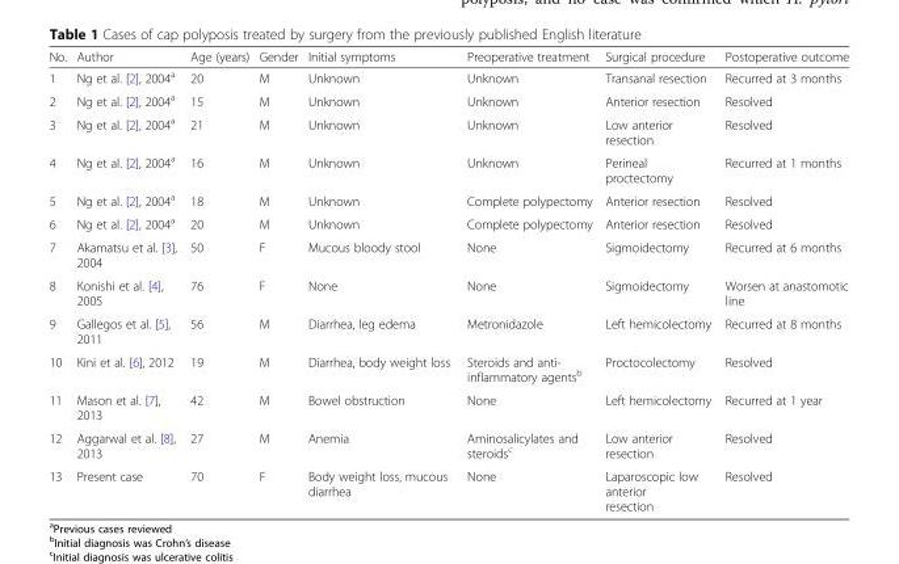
<table><thead><tr><td>No.</td><td>Author</td><td>Age (years)</td><td>Gender</td><td>Initial symptoms</td><td>Preoperative treatment</td><td>Surgical procedure</td><td>Postoperative outcome</td></tr></thead><tbody><tr><td>1</td><td>Ng et al. [2], 2004<sup>a</sup></td><td>20</td><td>M</td><td>Unknown</td><td>Unknown</td><td>Transanal resection</td><td>Recurred at 3 months</td></tr><tr><td>2</td><td>Ng et al. [2], 2004<sup>a</sup></td><td>15</td><td>M</td><td>Unknown</td><td>Unknown</td><td>Anterior resection</td><td>Resolved</td></tr><tr><td>3</td><td>Ng et al. [2], 2004<sup>a</sup></td><td>21</td><td>M</td><td>Unknown</td><td>Unknown</td><td>Low anterior resection</td><td>Resolved</td></tr><tr><td>4</td><td>Ng et al. [2], 2004<sup>a</sup></td><td>16</td><td>M</td><td>Unknown</td><td>Unknown</td><td>Perineal proctectomy</td><td>Recurred at 1 months</td></tr><tr><td>5</td><td>Ng et al. [2], 2004<sup>a</sup></td><td>18</td><td>M</td><td>Unknown</td><td>Complete polypectomy</td><td>Anterior resection</td><td>Resolved</td></tr><tr><td>6</td><td>Ng et al. [2], 2004<sup>a</sup></td><td>20</td><td>M</td><td>Unknown</td><td>Complete polypectomy</td><td>Anterior resection</td><td>Resolved</td></tr><tr><td>7</td><td>Akamatsu et al. [3], 2004</td><td>50</td><td>F</td><td>Mucous bloody stool</td><td>None</td><td>Sigmoidectomy</td><td>Recurred at 6 months</td></tr><tr><td>8</td><td>Konishi et al. [4], 2005</td><td>76</td><td>F</td><td>None</td><td>None</td><td>Sigmoidectomy</td><td>Worsen at anastomotic line</td></tr><tr><td>9</td><td>Gallegos et al. [5], 2011</td><td>56</td><td>M</td><td>Diarrhea, leg edema</td><td>Metronidazole</td><td>Left hemicolectomy</td><td>Recurred at 8 months</td></tr><tr><td>10</td><td>Kini et al. [6], 2012</td><td>19</td><td>M</td><td>Diarrhea, body weight loss</td><td>Steroids and anti- inflammatory agents<sup>b</sup></td><td>Proctocolectomy</td><td>Resolved</td></tr><tr><td>11</td><td>Mason et al. [7], 2013</td><td>42</td><td>M</td><td>Bowel obstruction</td><td>None</td><td>Left hemicolectomy</td><td>Recurred at 1 year</td></tr><tr><td>12</td><td>Aggarwal et al. [8], 2013</td><td>27</td><td>M</td><td>Anemia</td><td>Aminosalicylates and steroids<sup>c</sup></td><td>Low anterior resection</td><td>Resolved</td></tr><tr><td>13</td><td>Present case</td><td>70</td><td>F</td><td>Body weight loss, mucous diarrhea</td><td>None</td><td>Laparoscopic low anterior resection</td><td>Resolved</td></tr></tbody></table>